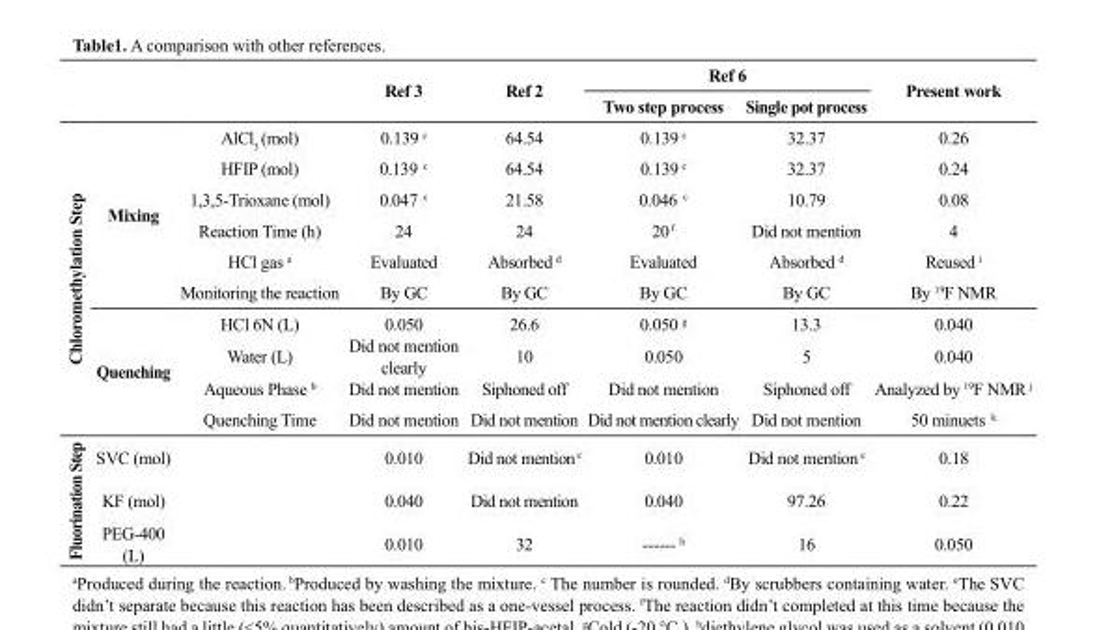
<table><thead><tr><td rowspan="2"></td><td rowspan="2"></td><td rowspan="2"></td><td rowspan="2">Ref 3</td><td rowspan="2">Ref 2</td><td colspan="2">Ref 6</td><td rowspan="2">Present work</td></tr><tr><td>Two step process</td><td>Single pot process</td></tr></thead><tbody><tr><td rowspan="10">Chloromethylation Step</td><td rowspan="6">Mixing</td><td>AlCl3 (mol)</td><td>0.139 c</td><td>64.54</td><td>0.139 <sup>c</sup></td><td>32.37</td><td>0.26</td></tr><tr><td>HFIP (mol)</td><td>0.139 c</td><td>64.54</td><td>0.139 c</td><td>32.37</td><td>0.24</td></tr><tr><td>1,3,5-Trioxane (mol)</td><td>0.047 c</td><td>21.58</td><td>0.046 c</td><td>10.79</td><td>0.08</td></tr><tr><td>Reaction Time (h)</td><td>24</td><td>24</td><td>20 f</td><td>Did not mention</td><td>4</td></tr><tr><td>HCl gas a</td><td>Evaluated</td><td>Absorbed d</td><td>Evaluated</td><td>Absorbed d</td><td>Reused i</td></tr><tr><td>Monitoring the reaction</td><td>By GC</td><td>By GC</td><td>By GC</td><td>By GC</td><td>By 19F NMR</td></tr><tr><td rowspan="4">Quenching</td><td>HCl 6N (L)</td><td>0.050</td><td>26.6</td><td>0.050 g</td><td>13.3</td><td>0.040</td></tr><tr><td>Water (L)</td><td>Did not mention clearly</td><td>10</td><td>0.050</td><td>5</td><td>0.040</td></tr><tr><td>Aqueous Phase b</td><td>Did not mention</td><td>Siphoned off</td><td>Did not mention</td><td>Siphoned off</td><td>Analyzed by 19F NMR j</td></tr><tr><td>Quenching Time</td><td>Did not mention</td><td>Did not mention</td><td>Did not mention clearly</td><td>Did not mention</td><td>50 minuets k</td></tr><tr><td rowspan="3">Fluorination Step</td><td>SVC (mol)</td><td></td><td>0.010</td><td>Did not mention e</td><td>0.010</td><td>Did not mention e</td><td>0.18</td></tr><tr><td>KF (mol)</td><td></td><td>0.040</td><td>Did not mention</td><td>0.040</td><td>97.26</td><td>0.22</td></tr><tr><td>PEG-400 (L)</td><td></td><td>0.010</td><td>32</td><td>------ h</td><td>16</td><td>0.050</td></tr></tbody></table>